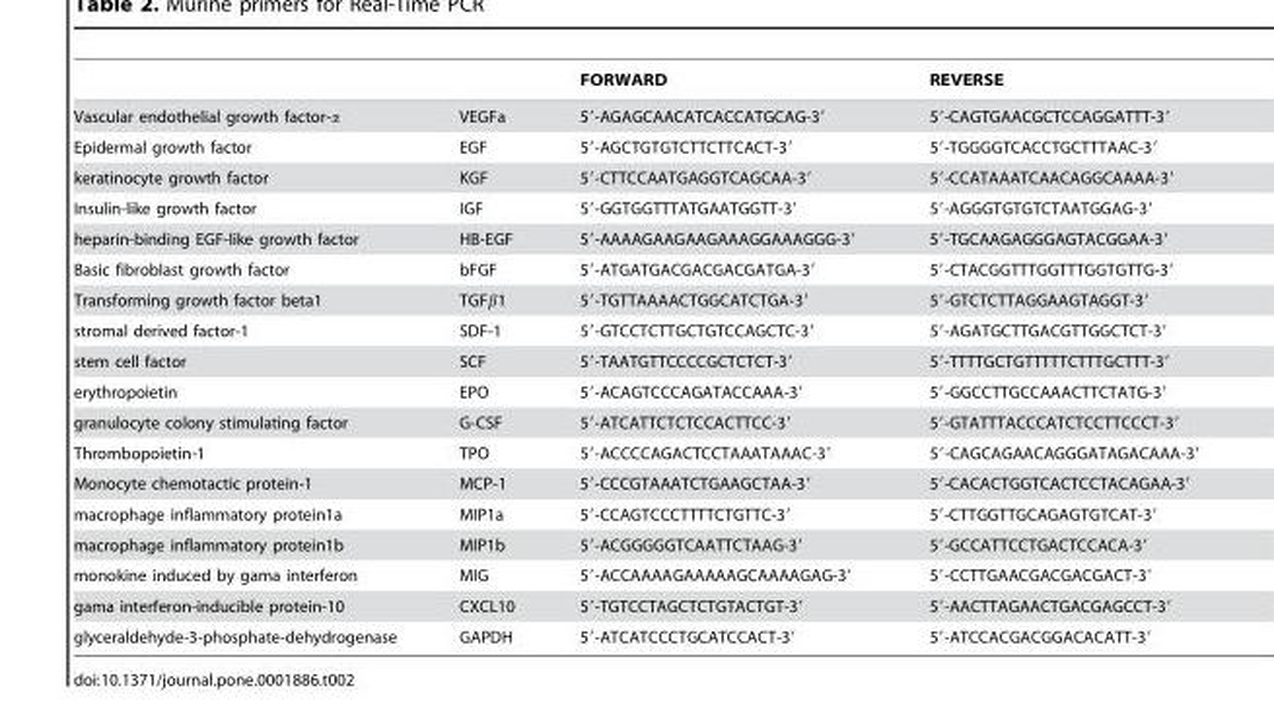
<table><thead><tr><td></td><td></td><td>FORWARD</td><td>REVERSE</td></tr></thead><tbody><tr><td>Vascular endothelial growth factor-α</td><td>VEGFa</td><td>5′-AGAGCAACATCACCATGCAG-3′</td><td>5′-CAGTGAACGCTCCAGGATTT-3′</td></tr><tr><td>Epidermal growth factor</td><td>EGF</td><td>5′-AGCTGTGTCTTCTTCACT-3′</td><td>5′-TGGGGTCACCTGCTTTAAC-3′</td></tr><tr><td>keratinocyte growth factor</td><td>KGF</td><td>5′-CTTCCAATGAGGTCAGCAA-3′</td><td>5′-CCATAAATCAACAGGCAAAA-3′</td></tr><tr><td>Insulin-like growth factor</td><td>IGF</td><td>5′-GGTGGTTTATGAATGGTT-3′</td><td>5′-AGGGTGTGTCTAATGGAG-3′</td></tr><tr><td>heparin-binding EGF-like growth factor</td><td>HB-EGF</td><td>5′-AAAAGAAGAAGAAAGGAAAGGG-3′</td><td>5′-TGCAAGAGGGAGTACGGAA-3′</td></tr><tr><td>Basic fibroblast growth factor</td><td>bFGF</td><td>5′-ATGATGACGACGACGATGA-3′</td><td>5′-CTACGGTTTGGTTTGGTGTTG-3′</td></tr><tr><td>Transforming growth factor beta1</td><td>TGFβ1</td><td>5′-TGTTAAAACTGGCATCTGA-3′</td><td>5′-GTCTCTTAGGAAGTAGGT-3′</td></tr><tr><td>stromal derived factor-1</td><td>SDF-1</td><td>5′-GTCCTCTTGCTGTCCAGCTC-3′</td><td>5′-AGATGCTTGACGTTGGCTCT-3′</td></tr><tr><td>stem cell factor</td><td>SCF</td><td>5′-TAATGTTCCCCGCTCTCT-3′</td><td>5′-TTTTGCTGTTTTTCTTTGCTTT-3′</td></tr><tr><td>erythropoietin</td><td>EPO</td><td>5′-ACAGTCCCAGATACCAAA-3′</td><td>5′-GGCCTTGCCAAACTTCTATG-3′</td></tr><tr><td>granulocyte colony stimulating factor</td><td>G-CSF</td><td>5′-ATCATTCTCTCCACTTCC-3′</td><td>5′-GTATTTACCCATCTCCTTCCCT-3′</td></tr><tr><td>Thrombopoietin-1</td><td>TPO</td><td>5′-ACCCCAGACTCCTAAATAAAC-3′</td><td>5′-CAGCAGAACAGGGATAGACAAA-3′</td></tr><tr><td>Monocyte chemotactic protein-1</td><td>MCP-1</td><td>5′-CCCGTAAATCTGAAGCTAA-3′</td><td>5′-CACACTGGTCACTCCTACAGAA-3′</td></tr><tr><td>macrophage inflammatory protein1a</td><td>MIP1a</td><td>5′-CCAGTCCCTTTTCTGTTC-3′</td><td>5′-CTTGGTTGCAGAGTGTCAT-3′</td></tr><tr><td>macrophage inflammatory protein1b</td><td>MIP1b</td><td>5′-ACGGGGGTCAATTCTAAG-3′</td><td>5′-GCCATTCCTGACTCCACA-3′</td></tr><tr><td>monokine induced by gama interferon</td><td>MIG</td><td>5′-ACCAAAAGAAAAAGCAAAAGAG-3′</td><td>5′-CCTTGAACGACGACGACT-3′</td></tr><tr><td>gama interferon-inducible protein-10</td><td>CXCL10</td><td>5′-TGTCCTAGCTCTGTACTGT-3′</td><td>5′-AACTTAGAACTGACGAGCCT-3′</td></tr><tr><td>glyceraldehyde-3-phosphate-dehydrogenase</td><td>GAPDH</td><td>5′-ATCATCCCTGCATCCACT-3′</td><td>5′-ATCCACGACGGACACATT-3′</td></tr></tbody></table>